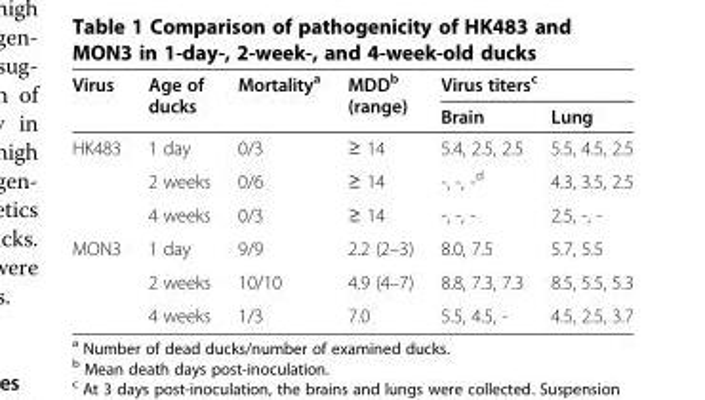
<table><thead><tr><td rowspan="2">Virus</td><td rowspan="2">Age of ducks</td><td rowspan="2">Mortality<sup>a</sup></td><td rowspan="2">MDD<sup>b</sup> (range)</td><td colspan="2">Virus titers<sup>c</sup></td></tr><tr><td>Brain</td><td>Lung</td></tr></thead><tbody><tr><td rowspan="3">HK483</td><td>1 day</td><td>0/3</td><td>≥ 14</td><td>5.4, 2.5, 2.5</td><td>5.5, 4.5, 2.5</td></tr><tr><td>2 weeks</td><td>0/6</td><td>≥ 14</td><td>-, -, -<sup>d</sup></td><td>4.3, 3.5, 2.5</td></tr><tr><td>4 weeks</td><td>0/3</td><td>≥ 14</td><td>-, -, -</td><td>2.5, -, -</td></tr><tr><td rowspan="3">MON3</td><td>1 day</td><td>9/9</td><td>2.2 (2–3)</td><td>8.0, 7.5</td><td>5.7, 5.5</td></tr><tr><td>2 weeks</td><td>10/10</td><td>4.9 (4–7)</td><td>8.8, 7.3, 7.3</td><td>8.5, 5.5, 5.3</td></tr><tr><td>4 weeks</td><td>1/3</td><td>7.0</td><td>5.5, 4.5, -</td><td>4.5, 2.5, 3.7</td></tr></tbody></table>